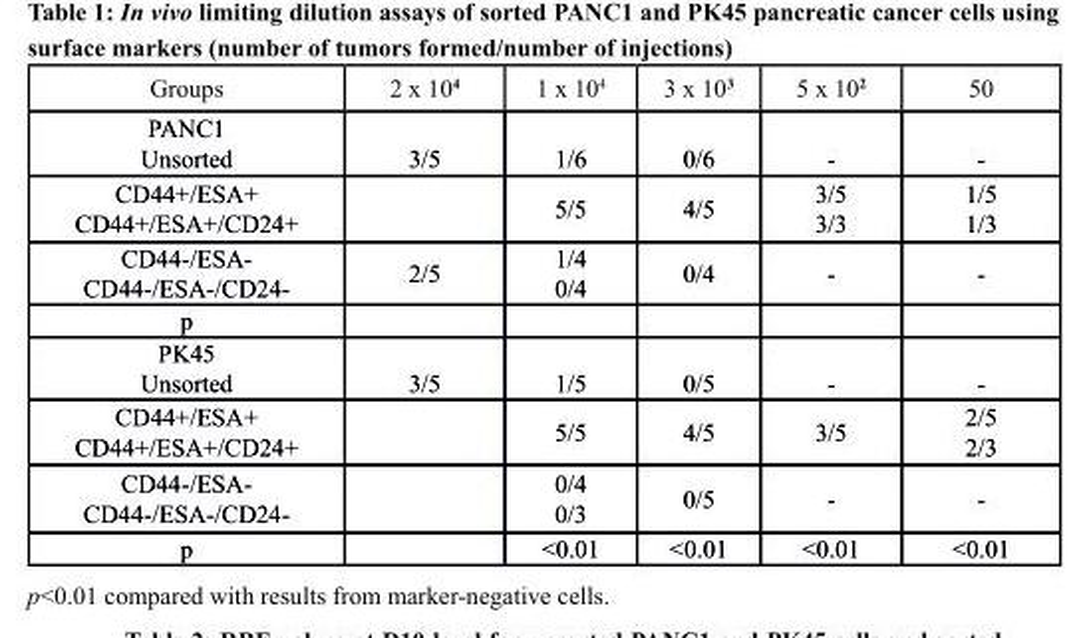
<table><thead><tr><td>Groups</td><td>2 x 104</td><td>1 x 104</td><td>3 x 103</td><td>5 x 102</td><td>50</td></tr></thead><tbody><tr><td>PANC1 Unsorted</td><td>3/5</td><td>1/6</td><td>0/6</td><td>-</td><td>-</td></tr><tr><td>CD44+/ESA+ CD44+/ESA+/CD24+</td><td></td><td>5/5</td><td>4/5</td><td>3/5 3/3</td><td>1/5 1/3</td></tr><tr><td>CD44-/ESA- CD44-/ESA-/CD24-</td><td>2/5</td><td>1/4 0/4</td><td>0/4</td><td>-</td><td>-</td></tr><tr><td colspan="6">p</td></tr><tr><td>PK45 Unsorted</td><td>3/5</td><td>1/5</td><td>0/5</td><td>-</td><td>-</td></tr><tr><td>CD44+/ESA+ CD44+/ESA+/CD24+</td><td></td><td>5/5</td><td>4/5</td><td>3/5</td><td>2/5 2/3</td></tr><tr><td>CD44-/ESA- CD44-/ESA-/CD24-</td><td></td><td>0/4 0/3</td><td>0/5</td><td>-</td><td>-</td></tr><tr><td>p</td><td></td><td>&lt;0.01</td><td>&lt;0.01</td><td>&lt;0.01</td><td>&lt;0.01</td></tr></tbody></table>